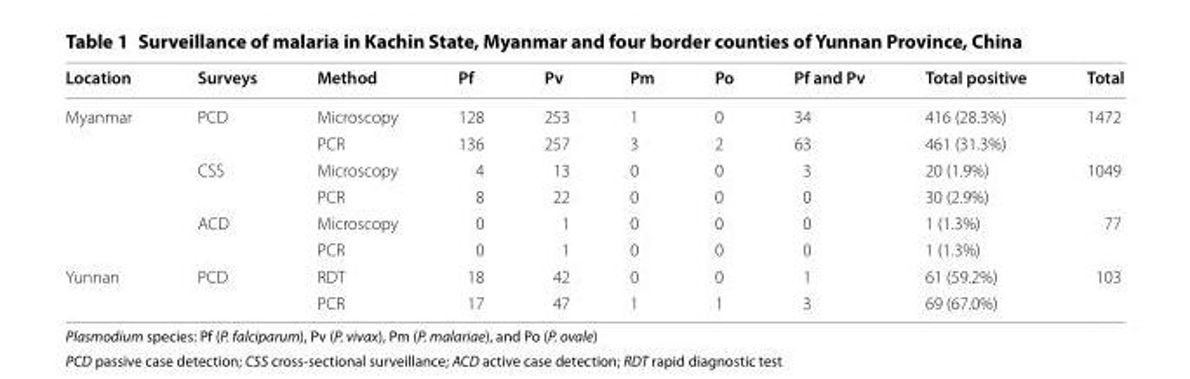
<table><thead><tr><td>Location</td><td>Surveys</td><td>Method</td><td>Pf</td><td>Pv</td><td>Pm</td><td>Po</td><td>Pf and Pv</td><td>Total positive</td><td>Total</td></tr></thead><tbody><tr><td rowspan="6">Myanmar</td><td rowspan="2">PCD</td><td>Microscopy</td><td>128</td><td>253</td><td>1</td><td>0</td><td>34</td><td>416 (28.3%)</td><td rowspan="2">1472</td></tr><tr><td>PCR</td><td>136</td><td>257</td><td>3</td><td>2</td><td>63</td><td>461 (31.3%)</td></tr><tr><td rowspan="2">CSS</td><td>Microscopy</td><td>4</td><td>13</td><td>0</td><td>0</td><td>3</td><td>20 (1.9%)</td><td rowspan="2">1049</td></tr><tr><td>PCR</td><td>8</td><td>22</td><td>0</td><td>0</td><td>0</td><td>30 (2.9%)</td></tr><tr><td rowspan="2">ACD</td><td>Microscopy</td><td>0</td><td>1</td><td>0</td><td>0</td><td>0</td><td>1 (1.3%)</td><td rowspan="2">77</td></tr><tr><td>PCR</td><td>0</td><td>1</td><td>0</td><td>0</td><td>0</td><td>1 (1.3%)</td></tr><tr><td rowspan="2">Yunnan</td><td rowspan="2">PCD</td><td>RDT</td><td>18</td><td>42</td><td>0</td><td>0</td><td>1</td><td>61 (59.2%)</td><td rowspan="2">103</td></tr><tr><td>PCR</td><td>17</td><td>47</td><td>1</td><td>1</td><td>3</td><td>69 (67.0%)</td></tr></tbody></table>